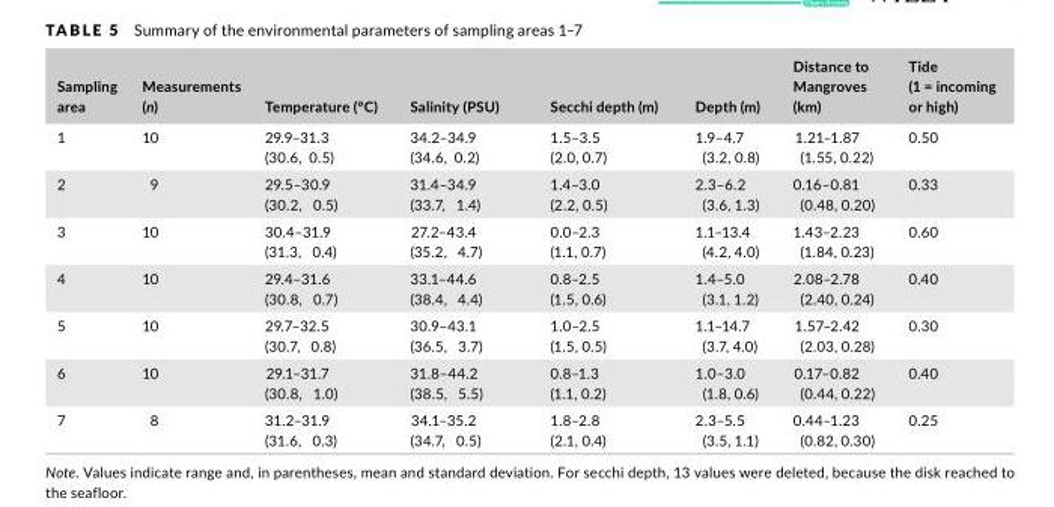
<table><thead><tr><td>Sampling area</td><td>Measurements (n)</td><td>Temperature (°C)</td><td>Salinity (PSU)</td><td>Secchi depth (m)</td><td>Depth (m)</td><td>Distance to Mangroves (km)</td><td>Tide (1 = incoming or high)</td></tr></thead><tbody><tr><td>1</td><td>10</td><td>29.9–31.3 (30.6, 0.5)</td><td>34.2–34.9 (34.6, 0.2)</td><td>1.5–3.5 (2.0, 0.7)</td><td>1.9–4.7 (3.2, 0.8)</td><td>1.21–1.87 (1.55, 0.22)</td><td>0.50</td></tr><tr><td>2</td><td>9</td><td>29.5–30.9 (30.2, 0.5)</td><td>31.4–34.9 (33.7, 1.4)</td><td>1.4–3.0 (2.2, 0.5)</td><td>2.3–6.2 (3.6, 1.3)</td><td>0.16–0.81 (0.48, 0.20)</td><td>0.33</td></tr><tr><td>3</td><td>10</td><td>30.4–31.9 (31.3, 0.4)</td><td>27.2–43.4 (35.2, 4.7)</td><td>0.0–2.3 (1.1, 0.7)</td><td>1.1–13.4 (4.2, 4.0)</td><td>1.43–2.23 (1.84, 0.23)</td><td>0.60</td></tr><tr><td>4</td><td>10</td><td>29.4–31.6 (30.8, 0.7)</td><td>33.1–44.6 (38.4, 4.4)</td><td>0.8–2.5 (1.5, 0.6)</td><td>1.4–5.0 (3.1, 1.2)</td><td>2.08–2.78 (2.40, 0.24)</td><td>0.40</td></tr><tr><td>5</td><td>10</td><td>29.7–32.5 (30.7, 0.8)</td><td>30.9–43.1 (36.5, 3.7)</td><td>1.0–2.5 (1.5, 0.5)</td><td>1.1–14.7 (3.7, 4.0)</td><td>1.57–2.42 (2.03, 0.28)</td><td>0.30</td></tr><tr><td>6</td><td>10</td><td>29.1–31.7 (30.8, 1.0)</td><td>31.8–44.2 (38.5, 5.5)</td><td>0.8–1.3 (1.1, 0.2)</td><td>1.0–3.0 (1.8, 0.6)</td><td>0.17–0.82 (0.44, 0.22)</td><td>0.40</td></tr><tr><td>7</td><td>8</td><td>31.2–31.9 (31.6, 0.3)</td><td>34.1–35.2 (34.7, 0.5)</td><td>1.8–2.8 (2.1, 0.4)</td><td>2.3–5.5 (3.5, 1.1)</td><td>0.44–1.23 (0.82, 0.30)</td><td>0.25</td></tr></tbody></table>